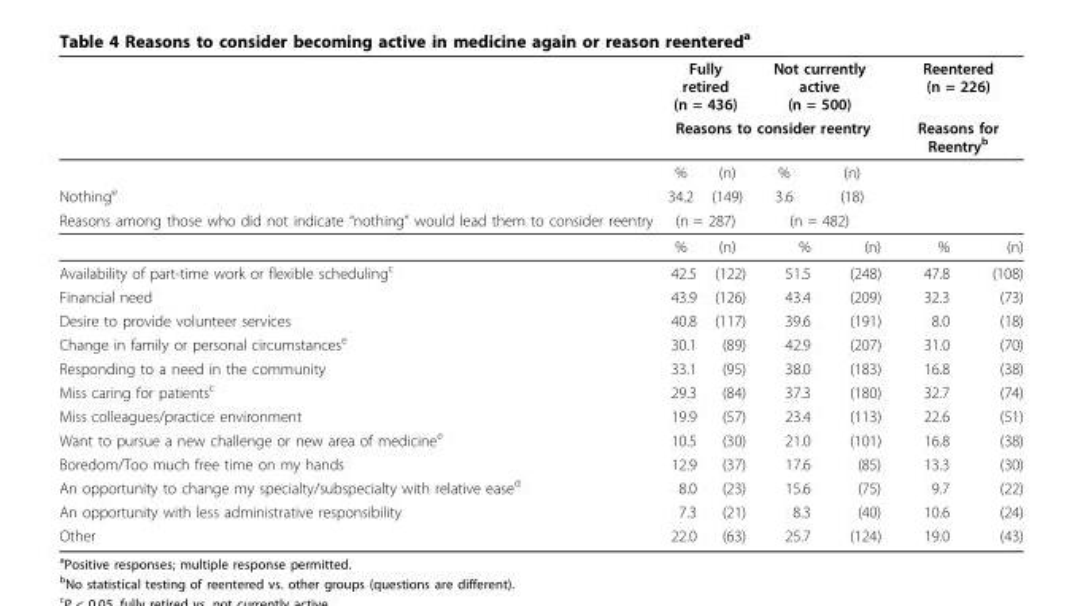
<table><thead><tr><td rowspan="3"></td><td colspan="2">Fully retired (n = 436)</td><td colspan="2">Not currently active (n = 500)</td><td rowspan="2" colspan="2">Reentered (n = 226) Reasons for Reentryb</td></tr><tr><td colspan="4">Reasons to consider reentry</td></tr><tr><td>%</td><td>(n)</td><td>%</td><td>(n)</td><td></td><td></td></tr></thead><tbody><tr><td>Nothinge</td><td>34.2</td><td>(149)</td><td>3.6</td><td>(18)</td><td></td><td></td></tr><tr><td rowspan="2">Reasons among those who did not indicate “nothing” would lead them to consider reentry</td><td colspan="2">(n = 287)</td><td colspan="2">(n = 482)</td><td></td><td></td></tr><tr><td>%</td><td>(n)</td><td>%</td><td>(n)</td><td>%</td><td>(n)</td></tr><tr><td>Availability of part-time work or flexible scheduling<sup>c</sup></td><td>42.5</td><td>(122)</td><td>51.5</td><td>(248)</td><td>47.8</td><td>(108)</td></tr><tr><td>Financial need</td><td>43.9</td><td>(126)</td><td>43.4</td><td>(209)</td><td>32.3</td><td>(73)</td></tr><tr><td>Desire to provide volunteer services</td><td>40.8</td><td>(117)</td><td>39.6</td><td>(191)</td><td>8.0</td><td>(18)</td></tr><tr><td>Change in family or personal circumstances<sup>e</sup></td><td>30.1</td><td>(89)</td><td>42.9</td><td>(207)</td><td>31.0</td><td>(70)</td></tr><tr><td>Responding to a need in the community</td><td>33.1</td><td>(95)</td><td>38.0</td><td>(183)</td><td>16.8</td><td>(38)</td></tr><tr><td>Miss caring for patients<sup>c</sup></td><td>29.3</td><td>(84)</td><td>37.3</td><td>(180)</td><td>32.7</td><td>(74)</td></tr><tr><td>Miss colleagues/practice environment</td><td>19.9</td><td>(57)</td><td>23.4</td><td>(113)</td><td>22.6</td><td>(51)</td></tr><tr><td>Want to pursue a new challenge or new area of medicine<sup>e</sup></td><td>10.5</td><td>(30)</td><td>21.0</td><td>(101)</td><td>16.8</td><td>(38)</td></tr><tr><td>Boredom/Too much free time on my hands</td><td>12.9</td><td>(37)</td><td>17.6</td><td>(85)</td><td>13.3</td><td>(30)</td></tr><tr><td>An opportunity to change my specialty/subspecialty with relative ease<sup>d</sup></td><td>8.0</td><td>(23)</td><td>15.6</td><td>(75)</td><td>9.7</td><td>(22)</td></tr><tr><td>An opportunity with less administrative responsibility</td><td>7.3</td><td>(21)</td><td>8.3</td><td>(40)</td><td>10.6</td><td>(24)</td></tr><tr><td>Other</td><td>22.0</td><td>(63)</td><td>25.7</td><td>(124)</td><td>19.0</td><td>(43)</td></tr></tbody></table>